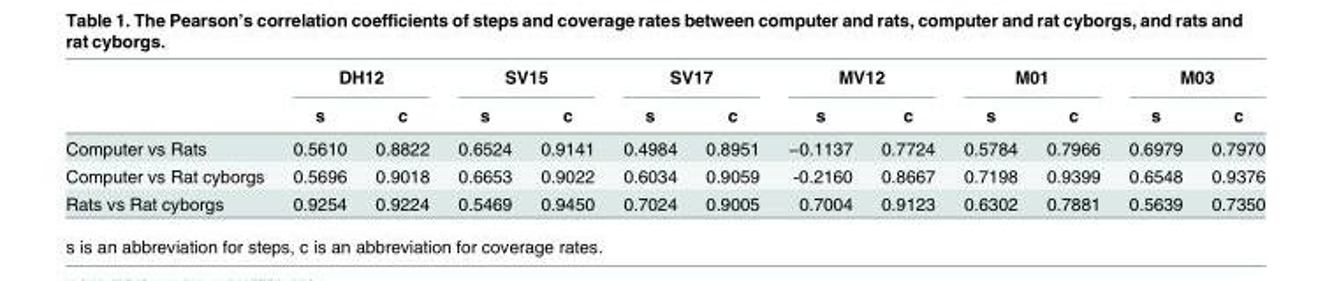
<table><thead><tr><td rowspan="2"></td><td colspan="2">DH12</td><td colspan="2">SV15</td><td colspan="2">SV17</td><td colspan="2">MV12</td><td colspan="2">M01</td><td colspan="2">M03</td></tr><tr><td>s</td><td>c</td><td>s</td><td>c</td><td>s</td><td>c</td><td>s</td><td>c</td><td>s</td><td>c</td><td>s</td><td>c</td></tr></thead><tbody><tr><td>Computer vs Rats</td><td>0.5610</td><td>0.8822</td><td>0.6524</td><td>0.9141</td><td>0.4984</td><td>0.8951</td><td>−0.1137</td><td>0.7724</td><td>0.5784</td><td>0.7966</td><td>0.6979</td><td>0.7970</td></tr><tr><td>Computer vs Rat cyborgs</td><td>0.5696</td><td>0.9018</td><td>0.6653</td><td>0.9022</td><td>0.6034</td><td>0.9059</td><td>-0.2160</td><td>0.8667</td><td>0.7198</td><td>0.9399</td><td>0.6548</td><td>0.9376</td></tr><tr><td>Rats vs Rat cyborgs</td><td>0.9254</td><td>0.9224</td><td>0.5469</td><td>0.9450</td><td>0.7024</td><td>0.9005</td><td>0.7004</td><td>0.9123</td><td>0.6302</td><td>0.7881</td><td>0.5639</td><td>0.7350</td></tr></tbody></table>